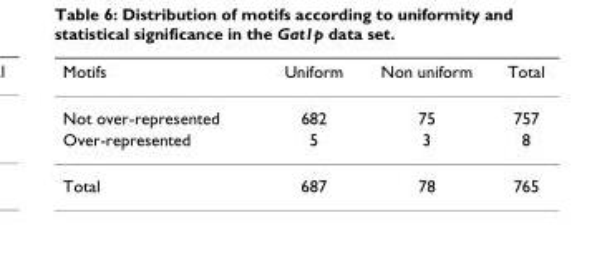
<table><thead><tr><td>Motifs</td><td>Uniform</td><td>Non uniform</td><td>Total</td></tr></thead><tbody><tr><td>Not over-represented</td><td>682</td><td>75</td><td>757</td></tr><tr><td>Over-represented</td><td>5</td><td>3</td><td>8</td></tr><tr><td>Total</td><td>687</td><td>78</td><td>765</td></tr></tbody></table>